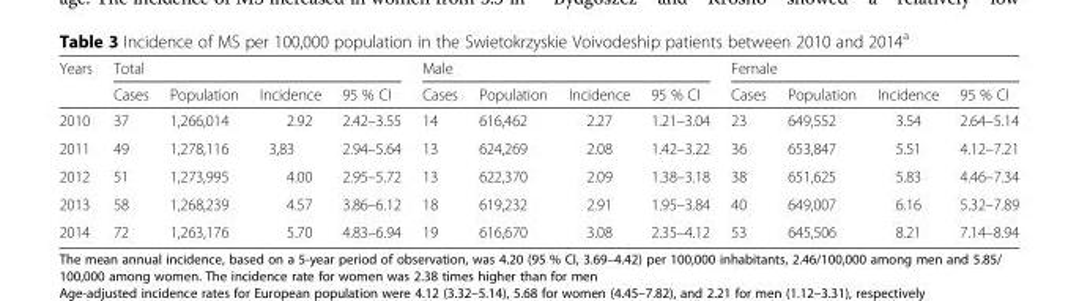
<table><thead><tr><td rowspan="2">Years</td><td colspan="4">Total</td><td colspan="4">Male</td><td colspan="4">Female</td></tr><tr><td>Cases</td><td>Population</td><td>Incidence</td><td>95 % CI</td><td>Cases</td><td>Population</td><td>Incidence</td><td>95 % CI</td><td>Cases</td><td>Population</td><td>Incidence</td><td>95 % CI</td></tr></thead><tbody><tr><td>2010</td><td>37</td><td>1,266,014</td><td>2.92</td><td>2.42–3.55</td><td>14</td><td>616,462</td><td>2.27</td><td>1.21–3.04</td><td>23</td><td>649,552</td><td>3.54</td><td>2.64–5.14</td></tr><tr><td>2011</td><td>49</td><td>1,278,116</td><td>3,83</td><td>2.94–5.64</td><td>13</td><td>624,269</td><td>2.08</td><td>1.42–3.22</td><td>36</td><td>653,847</td><td>5.51</td><td>4.12–7.21</td></tr><tr><td>2012</td><td>51</td><td>1,273,995</td><td>4.00</td><td>2.95–5.72</td><td>13</td><td>622,370</td><td>2.09</td><td>1.38–3.18</td><td>38</td><td>651,625</td><td>5.83</td><td>4.46–7.34</td></tr><tr><td>2013</td><td>58</td><td>1,268,239</td><td>4.57</td><td>3.86–6.12</td><td>18</td><td>619,232</td><td>2.91</td><td>1.95–3.84</td><td>40</td><td>649,007</td><td>6.16</td><td>5.32–7.89</td></tr><tr><td>2014</td><td>72</td><td>1,263,176</td><td>5.70</td><td>4.83–6.94</td><td>19</td><td>616,670</td><td>3.08</td><td>2.35–4.12</td><td>53</td><td>645,506</td><td>8.21</td><td>7.14–8.94</td></tr></tbody></table>